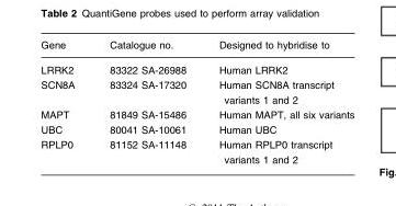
<table><thead><tr><td>Gene</td><td>Catalogue no.</td><td>Designed to hybridise to</td></tr></thead><tbody><tr><td>LRRK2</td><td>83322 SA-26988</td><td>Human LRRK2</td></tr><tr><td>SCN8A</td><td>83324 SA-17320</td><td>Human SCN8A transcript variants 1 and 2</td></tr><tr><td>MAPT</td><td>81849 SA-15486</td><td>Human MAPT, all six variants</td></tr><tr><td>UBC</td><td>80041 SA-10061</td><td>Human UBC</td></tr><tr><td>RPLP0</td><td>81152 SA-11148</td><td>Human RPLP0 transcript variants 1 and 2</td></tr></tbody></table>